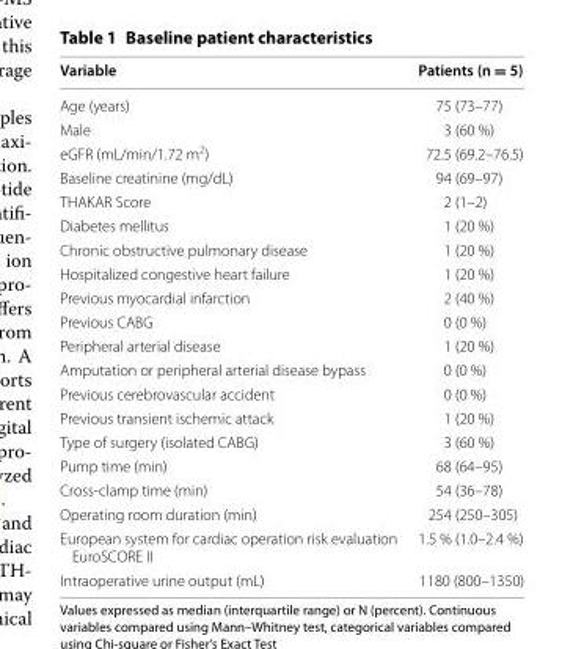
<table><thead><tr><td>Variable</td><td>Patients (n = 5)</td></tr></thead><tbody><tr><td>Age (years)</td><td>75 (73–77)</td></tr><tr><td>Male</td><td>3 (60 %)</td></tr><tr><td>eGFR (mL/min/1.72 m<sup>2</sup>)</td><td>72.5 (69.2–76.5)</td></tr><tr><td>Baseline creatinine (mg/dL)</td><td>94 (69–97)</td></tr><tr><td>THAKAR Score</td><td>2 (1–2)</td></tr><tr><td>Diabetes mellitus</td><td>1 (20 %)</td></tr><tr><td>Chronic obstructive pulmonary disease</td><td>1 (20 %)</td></tr><tr><td>Hospitalized congestive heart failure</td><td>1 (20 %)</td></tr><tr><td>Previous myocardial infarction</td><td>2 (40 %)</td></tr><tr><td>Previous CABG</td><td>0 (0 %)</td></tr><tr><td>Peripheral arterial disease</td><td>1 (20 %)</td></tr><tr><td>Amputation or peripheral arterial disease bypass</td><td>0 (0 %)</td></tr><tr><td>Previous cerebrovascular accident</td><td>0 (0 %)</td></tr><tr><td>Previous transient ischemic attack</td><td>1 (20 %)</td></tr><tr><td>Type of surgery (isolated CABG)</td><td>3 (60 %)</td></tr><tr><td>Pump time (min)</td><td>68 (64–95)</td></tr><tr><td>Cross-clamp time (min)</td><td>54 (36–78)</td></tr><tr><td>Operating room duration (min)</td><td>254 (250–305)</td></tr><tr><td>European system for cardiac operation risk evaluation EuroSCORE II</td><td>1.5 % (1.0–2.4 %)</td></tr><tr><td>Intraoperative urine output (mL)</td><td>1180 (800–1350)</td></tr></tbody></table>